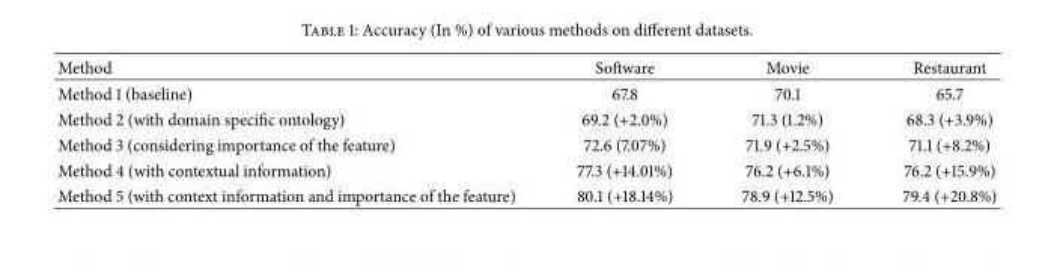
<table><thead><tr><td>Method</td><td>Software</td><td>Movie</td><td>Restaurant</td></tr></thead><tbody><tr><td>Method 1 (baseline)</td><td>67.8</td><td>70.1</td><td>65.7</td></tr><tr><td>Method 2 (with domain specific ontology)</td><td>69.2 (+2.0%)</td><td>71.3 (1.2%)</td><td>68.3 (+3.9%)</td></tr><tr><td>Method 3 (considering importance of the feature)</td><td>72.6 (7.07%)</td><td>71.9 (+2.5%)</td><td>71.1 (+8.2%)</td></tr><tr><td>Method 4 (with contextual information)</td><td>77.3 (+14.01%)</td><td>76.2 (+6.1%)</td><td>76.2 (+15.9%)</td></tr><tr><td>Method 5 (with context information and importance of the feature)</td><td>80.1 (+18.14%)</td><td>78.9 (+12.5%)</td><td>79.4 (+20.8%)</td></tr></tbody></table>